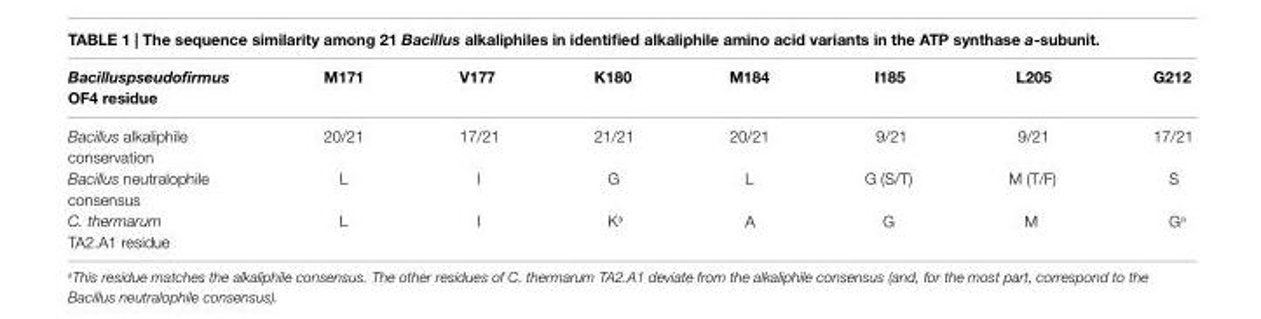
<table><thead><tr><td>Bacilluspseudofirmus OF4 residue</td><td>M171</td><td>v177</td><td>K180</td><td>M184</td><td>i185</td><td>L205</td><td>g212</td></tr></thead><tbody><tr><td>Bacillus alkaliphile conservation</td><td>20/21</td><td>17/21</td><td>21/21</td><td>20/21</td><td>9/21</td><td>9/21</td><td>17/21</td></tr><tr><td>Bacillus neutralophile consensus</td><td>L</td><td>I</td><td>G</td><td>L</td><td>G (S/T)</td><td>M (T/F)</td><td>S</td></tr><tr><td>C. thermarum TA2.A1 residue</td><td>L</td><td>I</td><td>K<sup>a</sup></td><td>A</td><td>G</td><td>M</td><td>G<sup>a</sup></td></tr></tbody></table>